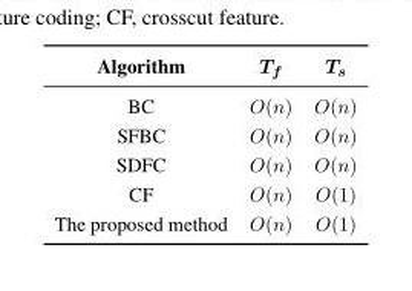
<table><thead><tr><td>Algorithm</td><td>T<sub>f</sub></td><td>T<sub>s</sub></td></tr></thead><tbody><tr><td>BC</td><td>O(n)</td><td>O(n)</td></tr><tr><td>SFBC</td><td>O(n)</td><td>O(n)</td></tr><tr><td>SDFC</td><td>O(n)</td><td>O(n)</td></tr><tr><td>CF</td><td>O(n)</td><td>O(1)</td></tr><tr><td>The proposed method</td><td>O(n)</td><td>O(1)</td></tr></tbody></table>